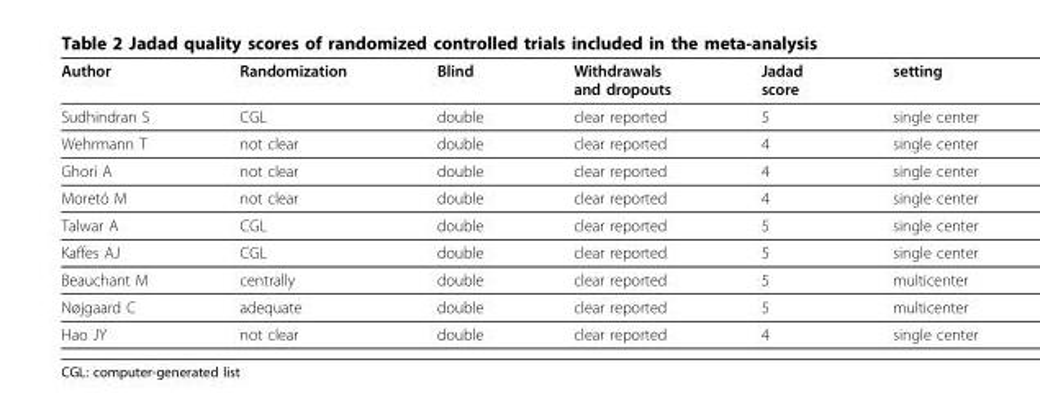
<table><thead><tr><td>Author</td><td>Randomization</td><td>Blind</td><td>Withdrawals and dropouts</td><td>Jadad score</td><td>setting</td></tr></thead><tbody><tr><td>Sudhindran S</td><td>CGL</td><td>double</td><td>clear reported</td><td>5</td><td>single center</td></tr><tr><td>Wehrmann T</td><td>not clear</td><td>double</td><td>clear reported</td><td>4</td><td>single center</td></tr><tr><td>Ghori A</td><td>not clear</td><td>double</td><td>clear reported</td><td>4</td><td>single center</td></tr><tr><td>Moretó M</td><td>not clear</td><td>double</td><td>clear reported</td><td>4</td><td>single center</td></tr><tr><td>Talwar A</td><td>CGL</td><td>double</td><td>clear reported</td><td>5</td><td>single center</td></tr><tr><td>Kaffes AJ</td><td>CGL</td><td>double</td><td>clear reported</td><td>5</td><td>single center</td></tr><tr><td>Beauchant M</td><td>centrally</td><td>double</td><td>clear reported</td><td>5</td><td>multicenter</td></tr><tr><td>Nøjgaard C</td><td>adequate</td><td>double</td><td>clear reported</td><td>5</td><td>multicenter</td></tr><tr><td>Hao JY</td><td>not clear</td><td>double</td><td>clear reported</td><td>4</td><td>single center</td></tr></tbody></table>